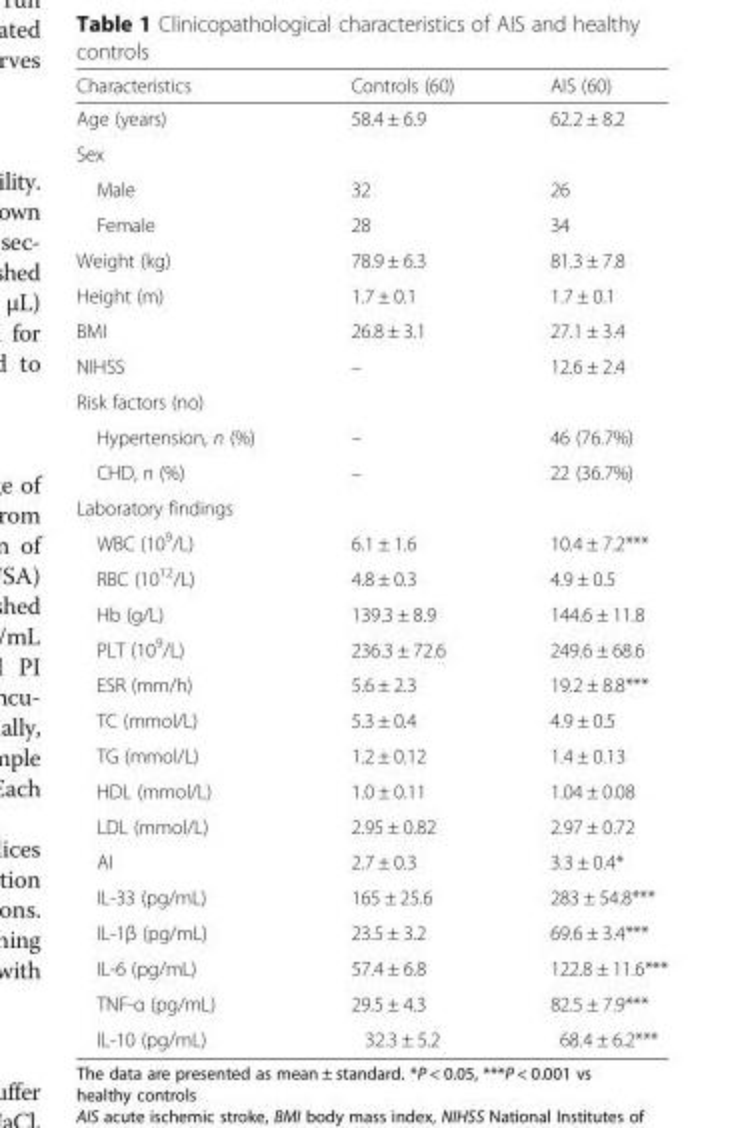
<table><thead><tr><td>Characteristics</td><td>Controls (60)</td><td>AIS (60)</td></tr></thead><tbody><tr><td>Age (years)</td><td>58.4 ± 6.9</td><td>62.2 ± 8.2</td></tr><tr><td colspan="3">Sex</td></tr><tr><td>Male</td><td>32</td><td>26</td></tr><tr><td>Female</td><td>28</td><td>34</td></tr><tr><td>Weight (kg)</td><td>78.9 ± 6.3</td><td>81.3 ± 7.8</td></tr><tr><td>Height (m)</td><td>1.7 ± 0.1</td><td>1.7 ± 0.1</td></tr><tr><td>BMI</td><td>26.8 ± 3.1</td><td>27.1 ± 3.4</td></tr><tr><td>NIHSS</td><td>–</td><td>12.6 ± 2.4</td></tr><tr><td colspan="3">Risk factors (no)</td></tr><tr><td>Hypertension, n (%)</td><td>–</td><td>46 (76.7%)</td></tr><tr><td>CHD, n (%)</td><td>–</td><td>22 (36.7%)</td></tr><tr><td colspan="3">Laboratory findings</td></tr><tr><td>WBC (10<sup>9</sup>/L)</td><td>6.1 ± 1.6</td><td>10.4 ± 7.2***</td></tr><tr><td>RBC (10<sup>12</sup>/L)</td><td>4.8 ± 0.3</td><td>4.9 ± 0.5</td></tr><tr><td>Hb (g/L)</td><td>139.3 ± 8.9</td><td>144.6 ± 11.8</td></tr><tr><td>PLT (10<sup>9</sup>/L)</td><td>236.3 ± 72.6</td><td>249.6 ± 68.6</td></tr><tr><td>ESR (mm/h)</td><td>5.6 ± 2.3</td><td>19.2 ± 8.8***</td></tr><tr><td>TC (mmol/L)</td><td>5.3 ± 0.4</td><td>4.9 ± 0.5</td></tr><tr><td>TG (mmol/L)</td><td>1.2 ± 0.12</td><td>1.4 ± 0.13</td></tr><tr><td>HDL (mmol/L)</td><td>1.0 ± 0.11</td><td>1.04 ± 0.08</td></tr><tr><td>LDL (mmol/L)</td><td>2.95 ± 0.82</td><td>2.97 ± 0.72</td></tr><tr><td>AI</td><td>2.7 ± 0.3</td><td>3.3 ± 0.4*</td></tr><tr><td>IL-33 (pg/mL)</td><td>165 ± 25.6</td><td>283 ± 54.8***</td></tr><tr><td>IL-1β (pg/mL)</td><td>23.5 ± 3.2</td><td>69.6 ± 3.4***</td></tr><tr><td>IL-6 (pg/mL)</td><td>57.4 ± 6.8</td><td>122.8 ± 11.6***</td></tr><tr><td>TNF-α (pg/mL)</td><td>29.5 ± 4.3</td><td>82.5 ± 7.9***</td></tr><tr><td>IL-10 (pg/mL)</td><td>32.3 ± 5.2</td><td>68.4 ± 6.2***</td></tr></tbody></table>